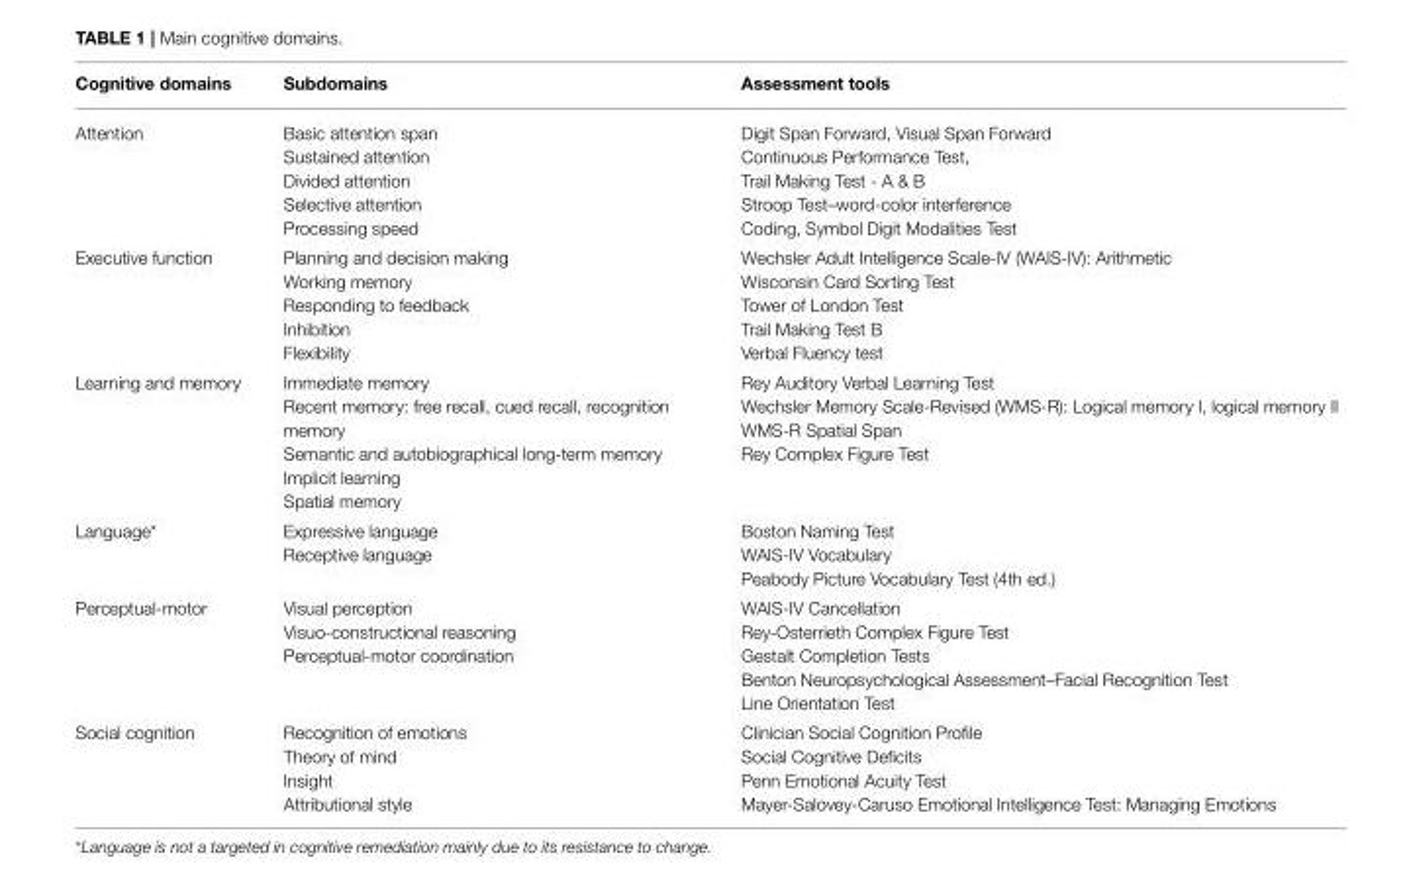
<table><thead><tr><td>Cognitive domains</td><td>Subdomains</td><td>Assessment tools</td></tr></thead><tbody><tr><td>Attention</td><td>Basic attention span Sustained attention Divided attention Selective attention Processing speed</td><td>Digit Span Forward, Visual Span Forward Continuous Performance Test, Trail Making Test - A &amp; B Stroop Test–word-color interference Coding, Symbol Digit Modalities Test</td></tr><tr><td>Executive function</td><td>Planning and decision making Working memory Responding to feedback Inhibition Flexibility</td><td>Wechsler Adult Intelligence Scale-IV (WAIS-IV): Arithmetic Wisconsin Card Sorting Test Tower of London Test Trail Making Test B Verbal Fluency test</td></tr><tr><td>Learning and memory</td><td>Immediate memory Recent memory: free recall, cued recall, recognition memory Semantic and autobiographical long-term memory Implicit learning Spatial memory</td><td>Rey Auditory Verbal Learning Test Wechsler Memory Scale-Revised (WMS-R): Logical memory I, logical memory II WMS-R Spatial Span Rey Complex Figure Test</td></tr><tr><td>Language*</td><td>Expressive language Receptive language</td><td>Boston Naming Test WAIS-IV Vocabulary Peabody Picture Vocabulary Test (4th ed.)</td></tr><tr><td>Perceptual-motor</td><td>Visual perception Visuo-constructional reasoning Perceptual-motor coordination</td><td>WAIS-IV Cancellation Rey-Osterrieth Complex Figure Test Gestalt Completion Tests Benton Neuropsychological Assessment–Facial Recognition Test Line Orientation Test</td></tr><tr><td>Social cognition</td><td>Recognition of emotions Theory of mind Insight Attributional style</td><td>Clinician Social Cognition Profile Social Cognitive Deficits Penn Emotional Acuity Test Mayer-Salovey-Caruso Emotional Intelligence Test: Managing Emotions</td></tr></tbody></table>